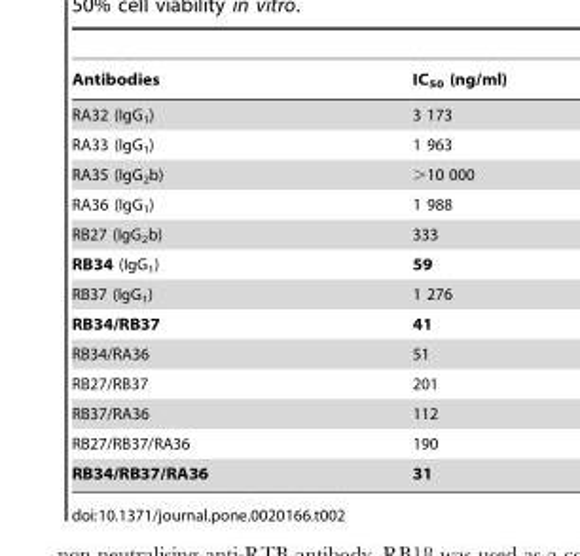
<table><thead><tr><td>Antibodies</td><td>IC<sub>50</sub> (ng/ml)</td></tr></thead><tbody><tr><td>RA32 (IgG<sub>1</sub>)</td><td>3 173</td></tr><tr><td>RA33 (IgG<sub>1</sub>)</td><td>1 963</td></tr><tr><td>RA35 (IgG<sub>2</sub>b)</td><td>&gt;10 000</td></tr><tr><td>RA36 (IgG<sub>1</sub>)</td><td>1 988</td></tr><tr><td>RB27 (IgG<sub>2</sub>b)</td><td>333</td></tr><tr><td>RB34 (IgG<sub>1</sub>)</td><td>59</td></tr><tr><td>RB37 (IgG<sub>1</sub>)</td><td>1 276</td></tr><tr><td>RB34/RB37</td><td>41</td></tr><tr><td>RB34/RA36</td><td>51</td></tr><tr><td>RB27/RB37</td><td>201</td></tr><tr><td>RB37/RA36</td><td>112</td></tr><tr><td>RB27/RB37/RA36</td><td>190</td></tr><tr><td>RB34/RB37/RA36</td><td>31</td></tr></tbody></table>